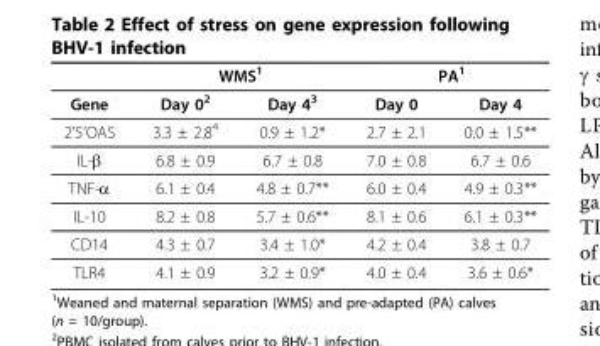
<table><thead><tr><td rowspan="2">Gene</td><td colspan="2">WMS<sup>1</sup></td><td colspan="2">PA<sup>1</sup></td></tr><tr><td>Day 0<sup>2</sup></td><td>Day 4<sup>3</sup></td><td>Day 0</td><td>Day 4</td></tr></thead><tbody><tr><td>2’5’OAS</td><td>3.3 ± 2.8<sup>4</sup></td><td>0.9 ± 1.2*</td><td>2.7 ± 2.1</td><td>0.0 ± 1.5**</td></tr><tr><td>IL-β</td><td>6.8 ± 0.9</td><td>6.7 ± 0.8</td><td>7.0 ± 0.8</td><td>6.7 ± 0.6</td></tr><tr><td>TNF-α</td><td>6.1 ± 0.4</td><td>4.8 ± 0.7**</td><td>6.0 ± 0.4</td><td>4.9 ± 0.3**</td></tr><tr><td>IL-10</td><td>8.2 ± 0.8</td><td>5.7 ± 0.6**</td><td>8.1 ± 0.6</td><td>6.1 ± 0.3**</td></tr><tr><td>CD14</td><td>4.3 ± 0.7</td><td>3.4 ± 1.0*</td><td>4.2 ± 0.4</td><td>3.8 ± 0.7</td></tr><tr><td>TLR4</td><td>4.1 ± 0.9</td><td>3.2 ± 0.9*</td><td>4.0 ± 0.4</td><td>3.6 ± 0.6*</td></tr></tbody></table>